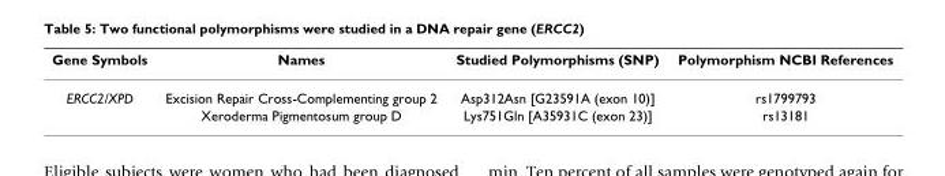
<table><thead><tr><td>Gene Symbols</td><td>Names</td><td>Studied Polymorphisms (SNP)</td><td>Polymorphism NCBI References</td></tr></thead><tbody><tr><td rowspan="2">ERCC2/XPD</td><td>Excision Repair Cross-Complementing group 2</td><td>Asp312Asn [G23591A (exon 10)]</td><td>rs1799793</td></tr><tr><td>Xeroderma Pigmentosum group D</td><td>Lys751Gln [A35931C (exon 23)]</td><td>rs13181</td></tr></tbody></table>